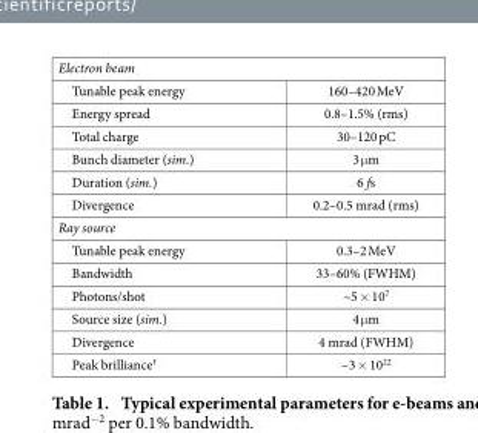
<table><tbody><tr><td colspan="2">Electron beam</td></tr><tr><td>Tunable peak energy</td><td>160–420 MeV</td></tr><tr><td>Energy spread</td><td>0.8–1.5% (rms)</td></tr><tr><td>Total charge</td><td>30–120 pC</td></tr><tr><td>Bunch diameter (sim.)</td><td>3 μ m</td></tr><tr><td>Duration (sim.)</td><td>6 fs</td></tr><tr><td>Divergence</td><td>0.2–0.5 mrad (rms)</td></tr><tr><td colspan="2">Ray source</td></tr><tr><td>Tunable peak energy</td><td>0.3–2 MeV</td></tr><tr><td>Bandwidth</td><td>33–60% (FWHM)</td></tr><tr><td>Photons/shot</td><td>~5 × 10<sup>7</sup></td></tr><tr><td>Source size (sim.)</td><td>4 μ m</td></tr><tr><td>Divergence</td><td>4 mrad (FWHM)</td></tr><tr><td>Peak brilliance†</td><td>~3 × 10<sup>22</sup></td></tr></tbody></table>